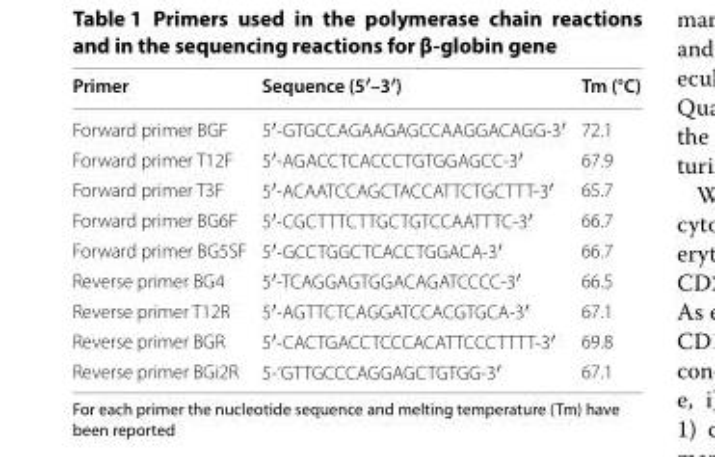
<table><thead><tr><td>Primer</td><td>Sequence (5′–3′)</td><td>Tm (°C)</td></tr></thead><tbody><tr><td>Forward primer BGF</td><td>5′-GTGCCAGAAGAGCCAAGGACAGG-3′</td><td>72.1</td></tr><tr><td>Forward primer T12F</td><td>5′-AGACCTCACCCTGTGGAGCC-3′</td><td>67.9</td></tr><tr><td>Forward primer T3F</td><td>5′-ACAATCCAGCTACCATTCTGCTTT-3′</td><td>65.7</td></tr><tr><td>Forward primer BG6F</td><td>5′-CGCTTTCTTGCTGTCCAATTTC-3′</td><td>66.7</td></tr><tr><td>Forward primer BG5SF</td><td>5′-GCCTGGCTCACCTGGACA-3′</td><td>66.7</td></tr><tr><td>Reverse primer BG4</td><td>5′-TCAGGAGTGGACAGATCCCC-3′</td><td>66.5</td></tr><tr><td>Reverse primer T12R</td><td>5′-AGTTCTCAGGATCCACGTGCA-3′</td><td>67.1</td></tr><tr><td>Reverse primer BGR</td><td>5′-CACTGACCTCCCACATTCCCTTTT-3′</td><td>69.8</td></tr><tr><td>Reverse primer BGi2R</td><td>5-‘GTTGCCCAGGAGCTGTGG-3′</td><td>67.1</td></tr></tbody></table>